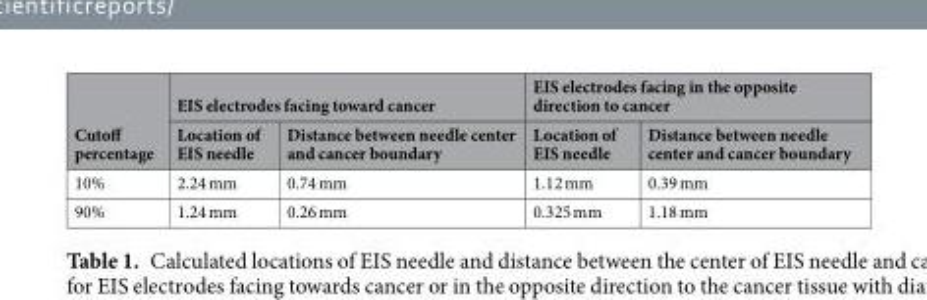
<table><thead><tr><td rowspan="2">Cutoff percentage</td><td colspan="2">EIS electrodes facing toward cancer</td><td colspan="2">EIS electrodes facing in the opposite direction to cancer</td></tr><tr><td>Location of EIS needle</td><td>Distance between needle center and cancer boundary</td><td>Location of EIS needle</td><td>Distance between needle center and cancer boundary</td></tr></thead><tbody><tr><td>10%</td><td>2.24 mm</td><td>0.74 mm</td><td>1.12 mm</td><td>0.39 mm</td></tr><tr><td>90%</td><td>1.24 mm</td><td>0.26 mm</td><td>0.325 mm</td><td>1.18 mm</td></tr></tbody></table>